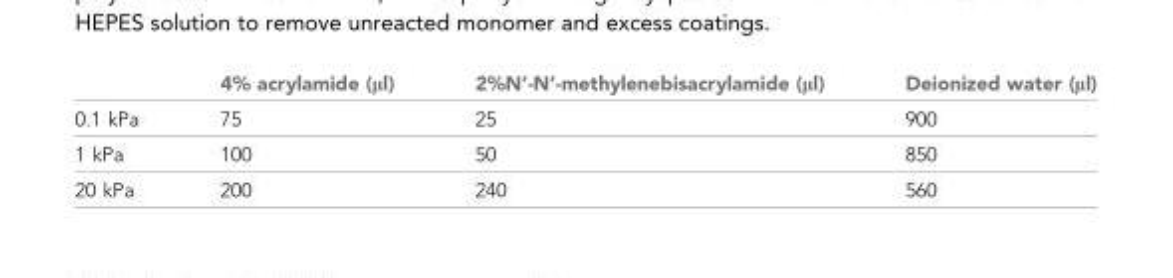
<table><thead><tr><td></td><td>4% acrylamide (μl)</td><td>2%N’-N’-methylenebisacrylamide (μl)</td><td>Deionized water (μl)</td></tr></thead><tbody><tr><td>0.1 kPa</td><td>75</td><td>25</td><td>900</td></tr><tr><td>1 kPa</td><td>100</td><td>50</td><td>850</td></tr><tr><td>20 kPa</td><td>200</td><td>240</td><td>560</td></tr></tbody></table>